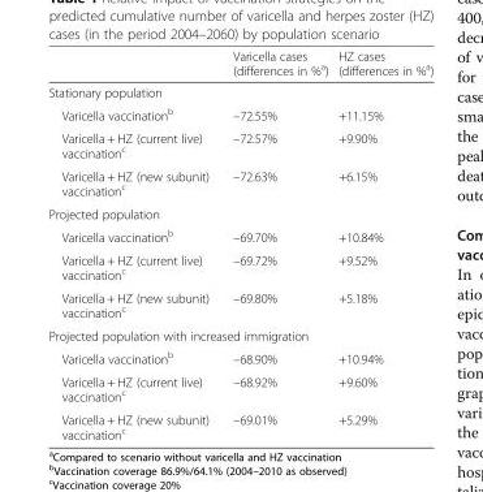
<table><thead><tr><td></td><td>Varicella cases (differences in %<sup>a</sup>)</td><td>HZ cases (differences in %<sup>a</sup>)</td></tr></thead><tbody><tr><td colspan="3">Stationary population</td></tr><tr><td>Varicella vaccination<sup>b</sup></td><td>–72.55%</td><td>+11.15%</td></tr><tr><td>Varicella + HZ (current live) vaccination<sup>c</sup></td><td>–72.57%</td><td>+9.90%</td></tr><tr><td>Varicella + HZ (new subunit) vaccination<sup>c</sup></td><td>–72.63%</td><td>+6.15%</td></tr><tr><td colspan="3">Projected population</td></tr><tr><td>Varicella vaccination<sup>b</sup></td><td>–69.70%</td><td>+10.84%</td></tr><tr><td>Varicella + HZ (current live) vaccination<sup>c</sup></td><td>–69.72%</td><td>+9.52%</td></tr><tr><td>Varicella + HZ (new subunit) vaccination<sup>c</sup></td><td>–69.80%</td><td>+5.18%</td></tr><tr><td colspan="3">Projected population with increased immigration</td></tr><tr><td>Varicella vaccination<sup>b</sup></td><td>–68.90%</td><td>+10.94%</td></tr><tr><td>Varicella + HZ (current live) vaccination<sup>c</sup></td><td>–68.92%</td><td>+9.60%</td></tr><tr><td>Varicella + HZ (new subunit) vaccination<sup>c</sup></td><td>–69.01%</td><td>+5.29%</td></tr></tbody></table>